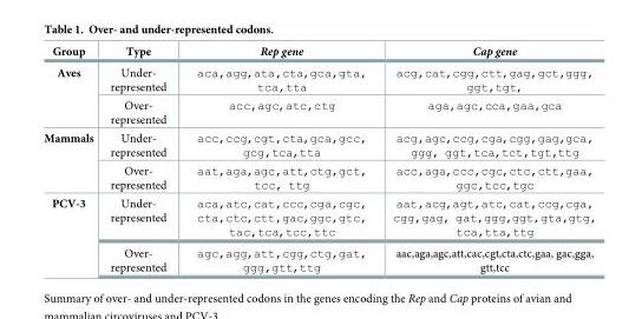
<table><thead><tr><td>Group</td><td>Type</td><td>Rep gene</td><td>Cap gene</td></tr></thead><tbody><tr><td rowspan="2">Aves</td><td>Under- represented</td><td>aca,agg,ata,cta,gca,gta, tca,tta</td><td>acg,cat,cgg,ctt,gag,gct,ggg, ggt,tgt,</td></tr><tr><td>Over- represented</td><td>acc,agc,atc,ctg</td><td>aga,agc,cca,gaa,gca</td></tr><tr><td rowspan="2">Mammals</td><td>Under- represented</td><td>acc,ccg,cgt,cta,gca,gcc, gcg,tca,tta</td><td>acg,agc,ccg,cga,cgg,gag,gca, ggg, ggt,tca,tct,tgt,ttg</td></tr><tr><td>Over- represented</td><td>aat,aga,agc,att,ctg,gct, tcc, ttg</td><td>acc,aga,ccc,cgc,ctc,ctt,gaa, ggc,tcc,tgc</td></tr><tr><td rowspan="2">PCV-3</td><td>Under- represented</td><td>aca,atc,cat,ccc,cga,cgc, cta,ctc,ctt,gac,ggc,gtc, tac,tca,tcc,ttc</td><td>aat,acg,agt,atc,cat,ccg,cga, cgg,gag, gat,ggg,ggt,gta,gtg, tca,tta,ttg</td></tr><tr><td>Over- represented</td><td>agc,agg,att,cgg,ctg,gat, ggg,gtt,ttg</td><td>aac,aga,agc,att,cac,cgt,cta,ctc,gaa, gac,gga, gtt,tcc</td></tr></tbody></table>